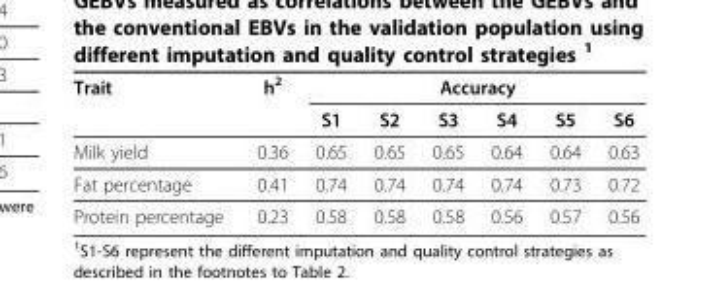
<table><thead><tr><td rowspan="2">Trait</td><td rowspan="2">h<sup>2</sup></td><td colspan="6">Accuracy</td></tr><tr><td>S1</td><td>S2</td><td>S3</td><td>S4</td><td>S5</td><td>S6</td></tr></thead><tbody><tr><td>Milk yield</td><td>0.36</td><td>0.65</td><td>0.65</td><td>0.65</td><td>0.64</td><td>0.64</td><td>0.63</td></tr><tr><td>Fat percentage</td><td>0.41</td><td>0.74</td><td>0.74</td><td>0.74</td><td>0.74</td><td>0.73</td><td>0.72</td></tr><tr><td>Protein percentage</td><td>0.23</td><td>0.58</td><td>0.58</td><td>0.58</td><td>0.56</td><td>0.57</td><td>0.56</td></tr></tbody></table>